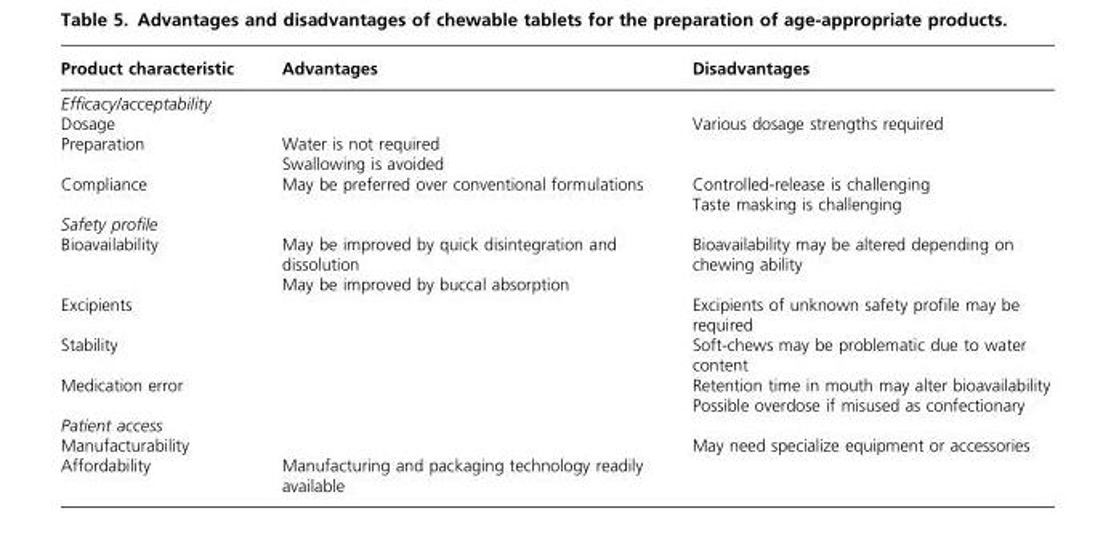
<table><thead><tr><td>Product characteristic</td><td>Advantages</td><td>Disadvantages</td></tr></thead><tbody><tr><td colspan="3">Efficacy/acceptability</td></tr><tr><td>Dosage</td><td></td><td>Various dosage strengths required</td></tr><tr><td>Preparation</td><td>Water is not required Swallowing is avoided</td><td></td></tr><tr><td>Compliance</td><td>May be preferred over conventional formulations</td><td>Controlled-release is challenging Taste masking is challenging</td></tr><tr><td colspan="3">Safety profile</td></tr><tr><td>Bioavailability</td><td>May be improved by quick disintegration and dissolution May be improved by buccal absorption</td><td>Bioavailability may be altered depending on chewing ability</td></tr><tr><td>Excipients</td><td></td><td>Excipients of unknown safety profile may be required</td></tr><tr><td>Stability</td><td></td><td>Soft-chews may be problematic due to water content</td></tr><tr><td>Medication error</td><td></td><td>Retention time in mouth may alter bioavailability Possible overdose if misused as confectionary</td></tr><tr><td colspan="3">Patient access</td></tr><tr><td>Manufacturability</td><td></td><td>May need specialize equipment or accessories</td></tr><tr><td>Affordability</td><td>Manufacturing and packaging technology readily available</td><td></td></tr></tbody></table>